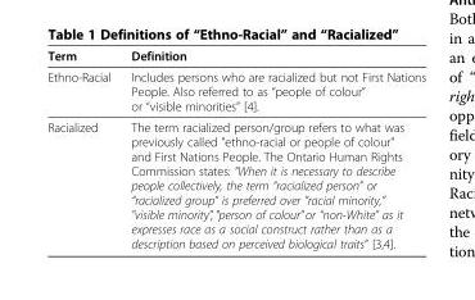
<table><thead><tr><td>Term</td><td>Definition</td></tr></thead><tbody><tr><td>Ethno-Racial</td><td>Includes persons who are racialized but not First Nations People. Also referred to as “people of colour” or “visible minorities” [4].</td></tr><tr><td>Racialized</td><td>The term racialized person/group refers to what was previously called &quot;ethno-racial or people of colour&quot; and First Nations People. The Ontario Human Rights Commission states: “When it is necessary to describe people collectively, the term “racialized person” or “racialized group” is preferred over &quot;racial minority,” &quot;visible minority&quot;, &quot;person of colour&quot; or “non-White” as it expresses race as a social construct rather than as a description based on perceived biological traits” [3,4].</td></tr></tbody></table>